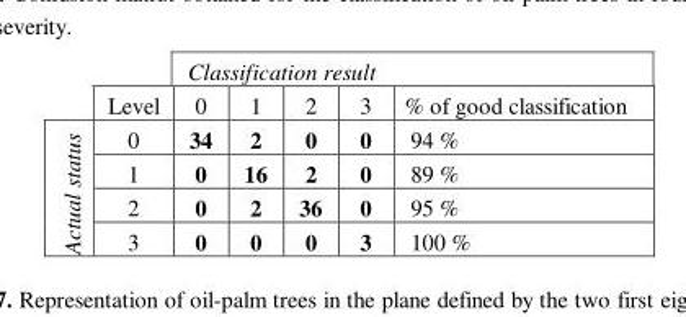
<table><thead><tr><td rowspan="2"></td><td rowspan="2">Level</td><td colspan="5">Classification result</td></tr><tr><td>0</td><td>1</td><td>2</td><td>3</td><td>% of good classification</td></tr></thead><tbody><tr><td rowspan="4">Actual status</td><td>0</td><td>34</td><td>2</td><td>0</td><td>0</td><td>94 %</td></tr><tr><td>1</td><td>0</td><td>16</td><td>2</td><td>0</td><td>89 %</td></tr><tr><td>2</td><td>0</td><td>2</td><td>36</td><td>0</td><td>95 %</td></tr><tr><td>3</td><td>0</td><td>0</td><td>0</td><td>3</td><td>100 %</td></tr></tbody></table>